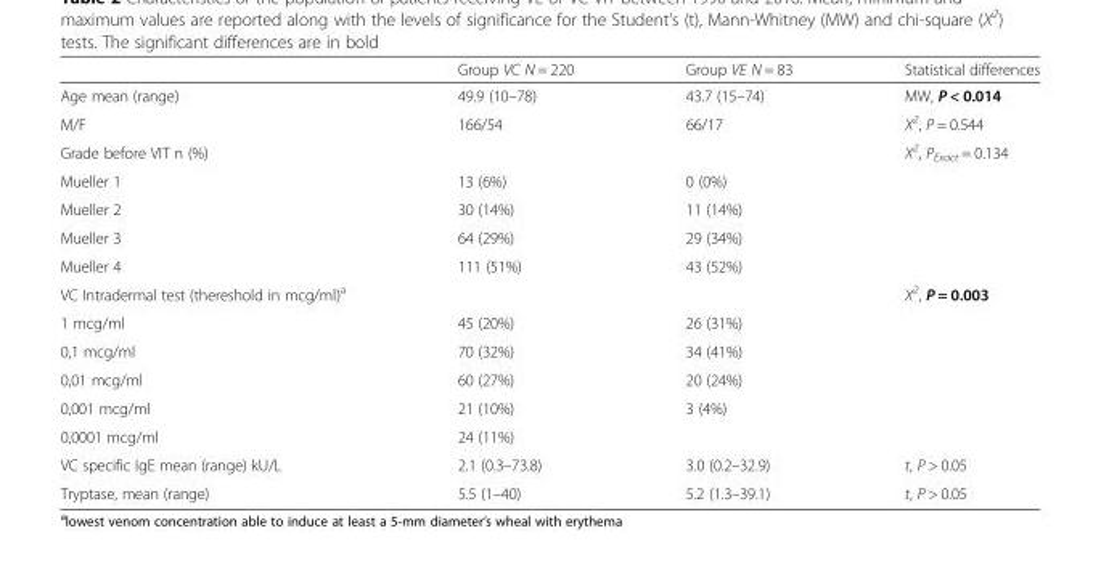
<table><thead><tr><td></td><td>Group VC N = 220</td><td>Group VE N = 83</td><td>Statistical differences</td></tr></thead><tbody><tr><td>Age mean (range)</td><td>49.9 (10–78)</td><td>43.7 (15–74)</td><td>MW, P &lt; 0.014</td></tr><tr><td>M/F</td><td>166/54</td><td>66/17</td><td>X<sup>2</sup>, P = 0.544</td></tr><tr><td>Grade before VIT n (%)</td><td></td><td></td><td>X<sup>2</sup>, P<sub>Exact</sub> = 0.134</td></tr><tr><td>Mueller 1</td><td>13 (6%)</td><td>0 (0%)</td><td></td></tr><tr><td>Mueller 2</td><td>30 (14%)</td><td>11 (14%)</td><td></td></tr><tr><td>Mueller 3</td><td>64 (29%)</td><td>29 (34%)</td><td></td></tr><tr><td>Mueller 4</td><td>111 (51%)</td><td>43 (52%)</td><td></td></tr><tr><td>VC Intradermal test (thereshold in mcg/ml)<sup>a</sup></td><td></td><td></td><td>X<sup>2</sup>, P = 0.003</td></tr><tr><td>1 mcg/ml</td><td>45 (20%)</td><td>26 (31%)</td><td></td></tr><tr><td>0,1 mcg/ml</td><td>70 (32%)</td><td>34 (41%)</td><td></td></tr><tr><td>0,01 mcg/ml</td><td>60 (27%)</td><td>20 (24%)</td><td></td></tr><tr><td>0,001 mcg/ml</td><td>21 (10%)</td><td>3 (4%)</td><td></td></tr><tr><td>0,0001 mcg/ml</td><td>24 (11%)</td><td></td><td></td></tr><tr><td>VC specific IgE mean (range) kU/L</td><td>2.1 (0.3–73.8)</td><td>3.0 (0.2–32.9)</td><td>t, P &gt; 0.05</td></tr><tr><td>Tryptase, mean (range)</td><td>5.5 (1–40)</td><td>5.2 (1.3–39.1)</td><td>t, P &gt; 0.05</td></tr></tbody></table>